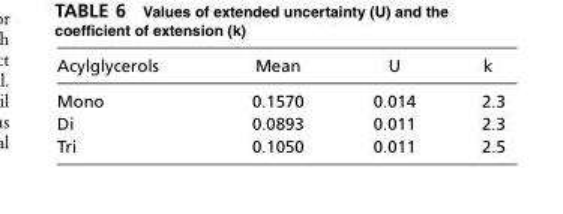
<table><thead><tr><td>Acylglycerols</td><td>Mean</td><td>U</td><td>k</td></tr></thead><tbody><tr><td>Mono</td><td>0.1570</td><td>0.014</td><td>2.3</td></tr><tr><td>Di</td><td>0.0893</td><td>0.011</td><td>2.3</td></tr><tr><td>Tri</td><td>0.1050</td><td>0.011</td><td>2.5</td></tr></tbody></table>